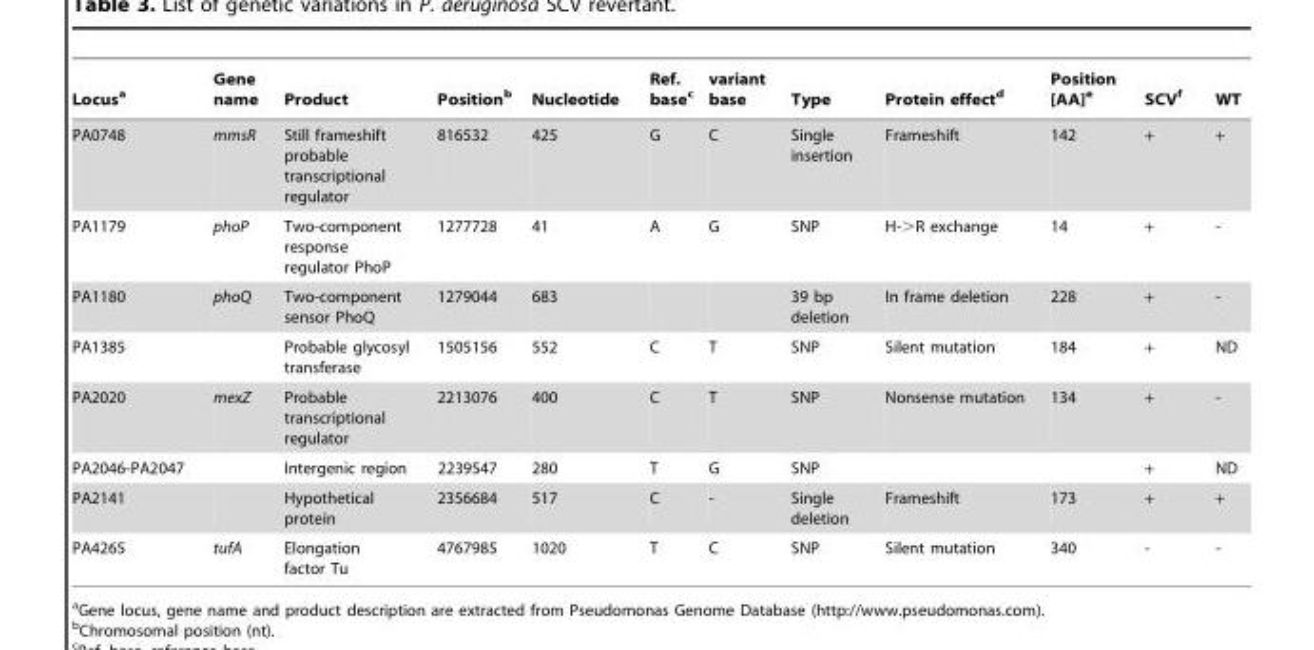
<table><thead><tr><td>Locus<sup>a</sup></td><td>Gene name</td><td>Product</td><td>Position<sup>b</sup></td><td>Nucleotide</td><td>Ref. base<sup>c</sup></td><td>variant base</td><td>Type</td><td>Protein effect<sup>d</sup></td><td>Position [AA]<sup>e</sup></td><td>SCV<sup>f</sup></td><td>WT</td></tr></thead><tbody><tr><td>PA0748</td><td>mmsR</td><td>Still frameshift probable transcriptional regulator</td><td>816532</td><td>425</td><td>G</td><td>C</td><td>Single insertion</td><td>Frameshift</td><td>142</td><td>+</td><td>+</td></tr><tr><td>PA1179</td><td>phoP</td><td>Two-component response regulator PhoP</td><td>1277728</td><td>41</td><td>A</td><td>G</td><td>SNP</td><td>H-&gt;R exchange</td><td>14</td><td>+</td><td>-</td></tr><tr><td>PA1180</td><td>phoQ</td><td>Two-component sensor PhoQ</td><td>1279044</td><td>683</td><td></td><td></td><td>39 bp deletion</td><td>In frame deletion</td><td>228</td><td>+</td><td>-</td></tr><tr><td>PA1385</td><td></td><td>Probable glycosyl transferase</td><td>1505156</td><td>552</td><td>C</td><td>T</td><td>SNP</td><td>Silent mutation</td><td>184</td><td>+</td><td>ND</td></tr><tr><td>PA2020</td><td>mexZ</td><td>Probable transcriptional regulator</td><td>2213076</td><td>400</td><td>C</td><td>T</td><td>SNP</td><td>Nonsense mutation</td><td>134</td><td>+</td><td>-</td></tr><tr><td>PA2046-PA2047</td><td></td><td>Intergenic region</td><td>2239547</td><td>280</td><td>T</td><td>G</td><td>SNP</td><td></td><td></td><td>+</td><td>ND</td></tr><tr><td>PA2141</td><td></td><td>Hypothetical protein</td><td>2356684</td><td>517</td><td>C</td><td>-</td><td>Single deletion</td><td>Frameshift</td><td>173</td><td>+</td><td>+</td></tr><tr><td>PA4265</td><td>tufA</td><td>Elongation factor Tu</td><td>4767985</td><td>1020</td><td>T</td><td>C</td><td>SNP</td><td>Silent mutation</td><td>340</td><td>-</td><td>-</td></tr></tbody></table>